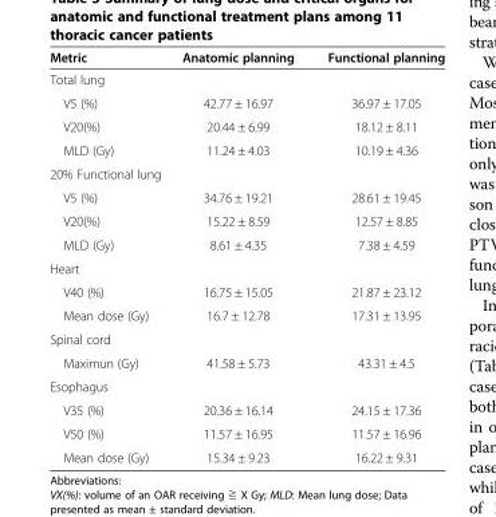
<table><thead><tr><td>Metric</td><td>Anatomic planning</td><td>Functional planning</td></tr></thead><tbody><tr><td colspan="3">Total lung</td></tr><tr><td>V5 (%)</td><td>42.77 ± 16.97</td><td>36.97 ± 17.05</td></tr><tr><td>V20(%)</td><td>20.44 ± 6.99</td><td>18.12 ± 8.11</td></tr><tr><td>MLD (Gy)</td><td>11.24 ± 4.03</td><td>10.19 ± 4.36</td></tr><tr><td colspan="3">20% Functional lung</td></tr><tr><td>V5 (%)</td><td>34.76 ± 19.21</td><td>28.61 ± 19.45</td></tr><tr><td>V20(%)</td><td>15.22 ± 8.59</td><td>12.57 ± 8.85</td></tr><tr><td>MLD (Gy)</td><td>8.61 ± 4.35</td><td>7.38 ± 4.59</td></tr><tr><td colspan="3">Heart</td></tr><tr><td>V40 (%)</td><td>16.75 ± 15.05</td><td>21.87 ± 23.12</td></tr><tr><td>Mean dose (Gy)</td><td>16.7 ± 12.78</td><td>17.31 ± 13.95</td></tr><tr><td colspan="3">Spinal cord</td></tr><tr><td>Maximun (Gy)</td><td>41.58 ± 5.73</td><td>43.31 ± 4.5</td></tr><tr><td colspan="3">Esophagus</td></tr><tr><td>V35 (%)</td><td>20.36 ± 16.14</td><td>24.15 ± 17.36</td></tr><tr><td>V50 (%)</td><td>11.57 ± 16.95</td><td>11.57 ± 16.96</td></tr><tr><td>Mean dose (Gy)</td><td>15.34 ± 9.23</td><td>16.22 ± 9.31</td></tr></tbody></table>